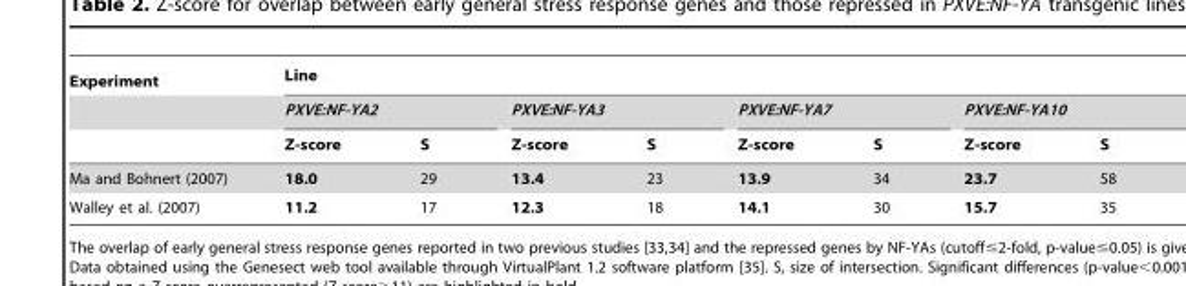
<table><thead><tr><td rowspan="3">Experiment</td><td colspan="8">Line</td></tr><tr><td colspan="2">PXVE:NF-YA2</td><td colspan="2">PXVE:NF-YA3</td><td colspan="2">PXVE:NF-YA7</td><td colspan="2">PXVE:NF-YA10</td></tr><tr><td>Z-score</td><td>S</td><td>Z-score</td><td>S</td><td>Z-score</td><td>S</td><td>Z-score</td><td>S</td></tr></thead><tbody><tr><td>Ma and Bohnert (2007)</td><td>18.0</td><td>29</td><td>13.4</td><td>23</td><td>13.9</td><td>34</td><td>23.7</td><td>58</td></tr><tr><td>Walley et al. (2007)</td><td>11.2</td><td>17</td><td>12.3</td><td>18</td><td>14.1</td><td>30</td><td>15.7</td><td>35</td></tr></tbody></table>